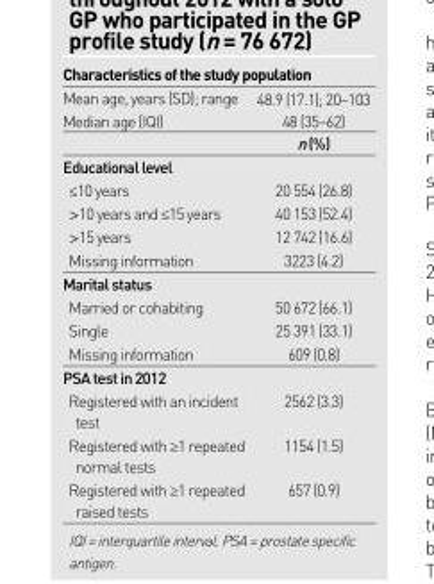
<table><tbody><tr><td colspan="2">Characteristics of the study population</td></tr><tr><td>Mean age, years (SD); range</td><td>48.9 (17.1); 20–103</td></tr><tr><td rowspan="2">Median age (IQI)</td><td>48 (35–62)</td></tr><tr><td>n (%)</td></tr><tr><td colspan="2">Educational level</td></tr><tr><td>≤10 years</td><td>20 554 (26.8)</td></tr><tr><td>&gt;10 years and ≤15 years</td><td>40 153 (52.4)</td></tr><tr><td>&gt;15 years</td><td>12 742 (16.6)</td></tr><tr><td>Missing information</td><td>3223 (4.2)</td></tr><tr><td colspan="2">Marital status</td></tr><tr><td>Married or cohabiting</td><td>50 672 (66.1)</td></tr><tr><td>Single</td><td>25 391 (33.1)</td></tr><tr><td>Missing information</td><td>609 (0.8)</td></tr><tr><td colspan="2">PSA test in 2012</td></tr><tr><td>Registered with an incident test</td><td>2562 (3.3)</td></tr><tr><td>Registered with ≥1 repeated normal tests</td><td>1154 (1.5)</td></tr><tr><td>Registered with ≥1 repeated raised tests</td><td>657 (0.9)</td></tr></tbody></table>